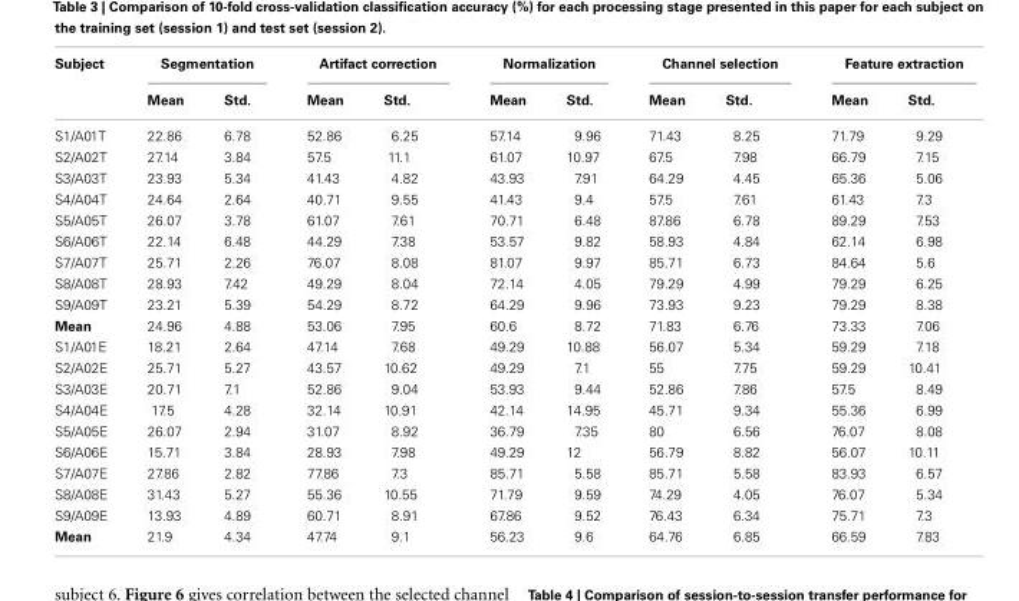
<table><thead><tr><td rowspan="2">Subject</td><td colspan="2">Segmentation</td><td colspan="2">Artifact correction</td><td colspan="2">Normalization</td><td colspan="2">Channel selection</td><td colspan="2">Feature extraction</td></tr><tr><td>Mean</td><td>Std.</td><td>Mean</td><td>Std.</td><td>Mean</td><td>Std.</td><td>Mean</td><td>Std.</td><td>Mean</td><td>Std.</td></tr></thead><tbody><tr><td>S1/A01T</td><td>22.86</td><td>6.78</td><td>52.86</td><td>6.25</td><td>57.14</td><td>9.96</td><td>71.43</td><td>8.25</td><td>71.79</td><td>9.29</td></tr><tr><td>S2/A02T</td><td>27.14</td><td>3.84</td><td>57.5</td><td>11.1</td><td>61.07</td><td>10.97</td><td>67.5</td><td>7.98</td><td>66.79</td><td>7.15</td></tr><tr><td>S3/A03T</td><td>23.93</td><td>5.34</td><td>41.43</td><td>4.82</td><td>43.93</td><td>7.91</td><td>64.29</td><td>4.45</td><td>65.36</td><td>5.06</td></tr><tr><td>S4/A04T</td><td>24.64</td><td>2.64</td><td>40.71</td><td>9.55</td><td>41.43</td><td>9.4</td><td>57.5</td><td>7.61</td><td>61.43</td><td>7.3</td></tr><tr><td>S5/A05T</td><td>26.07</td><td>3.78</td><td>61.07</td><td>7.61</td><td>70.71</td><td>6.48</td><td>87.86</td><td>6.78</td><td>89.29</td><td>7.53</td></tr><tr><td>S6/A06T</td><td>22.14</td><td>6.48</td><td>44.29</td><td>7.38</td><td>53.57</td><td>9.82</td><td>58.93</td><td>4.84</td><td>62.14</td><td>6.98</td></tr><tr><td>S7/A07T</td><td>25.71</td><td>2.26</td><td>76.07</td><td>8.08</td><td>81.07</td><td>9.97</td><td>85.71</td><td>6.73</td><td>84.64</td><td>5.6</td></tr><tr><td>S8/A08T</td><td>28.93</td><td>7.42</td><td>49.29</td><td>8.04</td><td>72.14</td><td>4.05</td><td>79.29</td><td>4.99</td><td>79.29</td><td>6.25</td></tr><tr><td>S9/A09T</td><td>23.21</td><td>5.39</td><td>54.29</td><td>8.72</td><td>64.29</td><td>9.96</td><td>73.93</td><td>9.23</td><td>79.29</td><td>8.38</td></tr><tr><td>Mean</td><td>24.96</td><td>4.88</td><td>53.06</td><td>7.95</td><td>60.6</td><td>8.72</td><td>71.83</td><td>6.76</td><td>73.33</td><td>7.06</td></tr><tr><td>S1/A01E</td><td>18.21</td><td>2.64</td><td>47.14</td><td>7.68</td><td>49.29</td><td>10.88</td><td>56.07</td><td>5.34</td><td>59.29</td><td>7.18</td></tr><tr><td>S2/A02E</td><td>25.71</td><td>5.27</td><td>43.57</td><td>10.62</td><td>49.29</td><td>7.1</td><td>55</td><td>7.75</td><td>59.29</td><td>10.41</td></tr><tr><td>S3/A03E</td><td>20.71</td><td>7.1</td><td>52.86</td><td>9.04</td><td>53.93</td><td>9.44</td><td>52.86</td><td>7.86</td><td>57.5</td><td>8.49</td></tr><tr><td>S4/A04E</td><td>17.5</td><td>4.28</td><td>32.14</td><td>10.91</td><td>42.14</td><td>14.95</td><td>45.71</td><td>9.34</td><td>55.36</td><td>6.99</td></tr><tr><td>S5/A05E</td><td>26.07</td><td>2.94</td><td>31.07</td><td>8.92</td><td>36.79</td><td>7.35</td><td>80</td><td>6.56</td><td>76.07</td><td>8.08</td></tr><tr><td>S6/A06E</td><td>15.71</td><td>3.84</td><td>28.93</td><td>7.98</td><td>49.29</td><td>12</td><td>56.79</td><td>8.82</td><td>56.07</td><td>10.11</td></tr><tr><td>S7/A07E</td><td>27.86</td><td>2.82</td><td>77.86</td><td>7.3</td><td>85.71</td><td>5.58</td><td>85.71</td><td>5.58</td><td>83.93</td><td>6.57</td></tr><tr><td>S8/A08E</td><td>31.43</td><td>5.27</td><td>55.36</td><td>10.55</td><td>71.79</td><td>9.59</td><td>74.29</td><td>4.05</td><td>76.07</td><td>5.34</td></tr><tr><td>S9/A09E</td><td>13.93</td><td>4.89</td><td>60.71</td><td>8.91</td><td>67.86</td><td>9.52</td><td>76.43</td><td>6.34</td><td>75.71</td><td>7.3</td></tr><tr><td>Mean</td><td>21.9</td><td>4.34</td><td>47.74</td><td>9.1</td><td>56.23</td><td>9.6</td><td>64.76</td><td>6.85</td><td>66.59</td><td>7.83</td></tr></tbody></table>